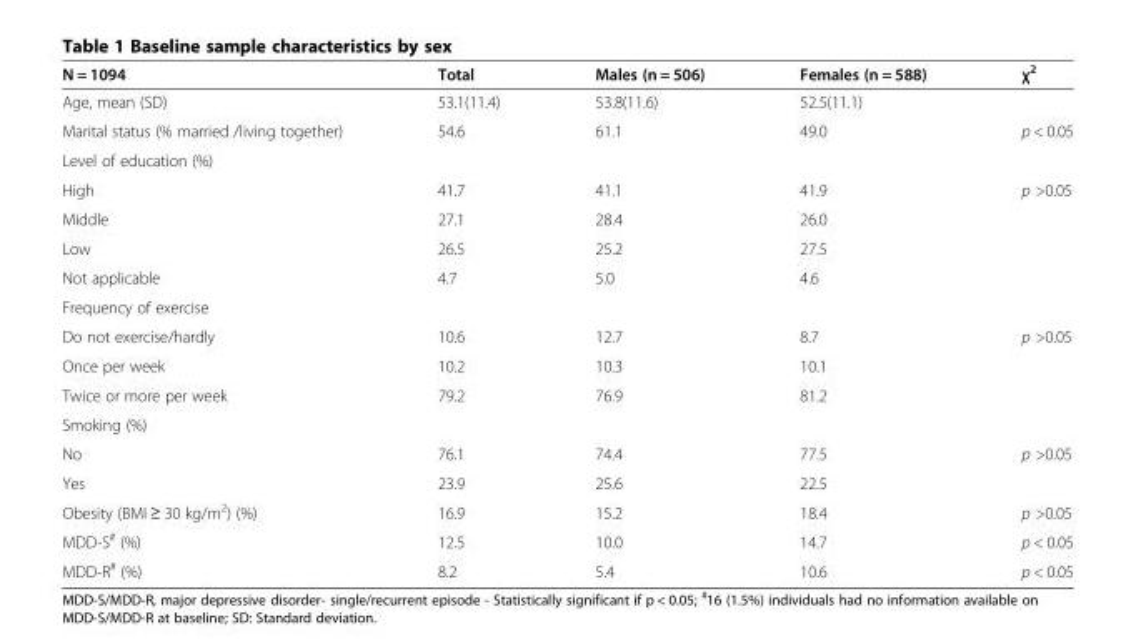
<table><thead><tr><td>N = 1094</td><td>Total</td><td>Males (n = 506)</td><td>Females (n = 588)</td><td>χ<sup>2</sup></td></tr></thead><tbody><tr><td>Age, mean (SD)</td><td>53.1(11.4)</td><td>53.8(11.6)</td><td>52.5(11.1)</td><td></td></tr><tr><td>Marital status (% married /living together)</td><td>54.6</td><td>61.1</td><td>49.0</td><td>p &lt; 0.05</td></tr><tr><td colspan="5">Level of education (%)</td></tr><tr><td>High</td><td>41.7</td><td>41.1</td><td>41.9</td><td>p &gt;0.05</td></tr><tr><td>Middle</td><td>27.1</td><td>28.4</td><td>26.0</td><td></td></tr><tr><td>Low</td><td>26.5</td><td>25.2</td><td>27.5</td><td></td></tr><tr><td>Not applicable</td><td>4.7</td><td>5.0</td><td>4.6</td><td></td></tr><tr><td colspan="5">Frequency of exercise</td></tr><tr><td>Do not exercise/hardly</td><td>10.6</td><td>12.7</td><td>8.7</td><td>p &gt;0.05</td></tr><tr><td>Once per week</td><td>10.2</td><td>10.3</td><td>10.1</td><td></td></tr><tr><td>Twice or more per week</td><td>79.2</td><td>76.9</td><td>81.2</td><td></td></tr><tr><td colspan="5">Smoking (%)</td></tr><tr><td>No</td><td>76.1</td><td>74.4</td><td>77.5</td><td>p &gt;0.05</td></tr><tr><td>Yes</td><td>23.9</td><td>25.6</td><td>22.5</td><td></td></tr><tr><td>Obesity (BMI ≥ 30 kg/m<sup>2</sup>) (%)</td><td>16.9</td><td>15.2</td><td>18.4</td><td>p &gt;0.05</td></tr><tr><td>MDD-S<sup>#</sup> (%)</td><td>12.5</td><td>10.0</td><td>14.7</td><td>p &lt; 0.05</td></tr><tr><td>MDD-R<sup>#</sup> (%)</td><td>8.2</td><td>5.4</td><td>10.6</td><td>p &lt; 0.05</td></tr></tbody></table>